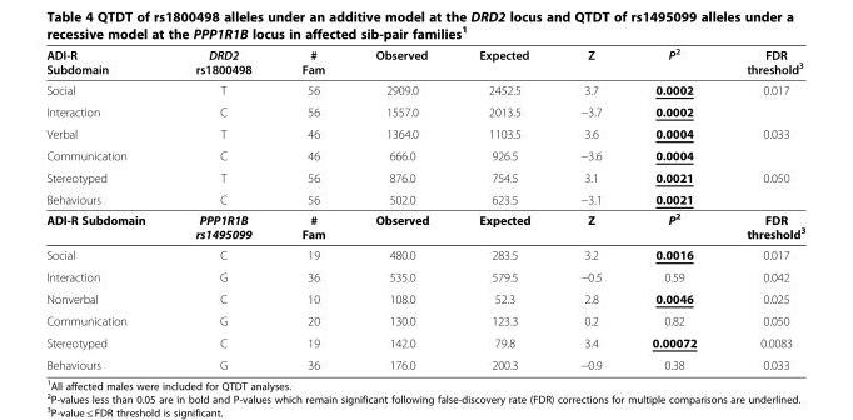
<table><thead><tr><td>ADI-R Subdomain</td><td>DRD2 rs1800498</td><td># Fam</td><td>Observed</td><td>Expected</td><td>Z</td><td>P<sup>2</sup></td><td>FDR threshold<sup>3</sup></td></tr></thead><tbody><tr><td>Social</td><td>T</td><td>56</td><td>2909.0</td><td>2452.5</td><td>3.7</td><td>0.0002</td><td>0.017</td></tr><tr><td>Interaction</td><td>C</td><td>56</td><td>1557.0</td><td>2013.5</td><td>−3.7</td><td>0.0002</td><td></td></tr><tr><td>Verbal</td><td>T</td><td>46</td><td>1364.0</td><td>1103.5</td><td>3.6</td><td>0.0004</td><td>0.033</td></tr><tr><td>Communication</td><td>C</td><td>46</td><td>666.0</td><td>926.5</td><td>−3.6</td><td>0.0004</td><td></td></tr><tr><td>Stereotyped</td><td>T</td><td>56</td><td>876.0</td><td>754.5</td><td>3.1</td><td>0.0021</td><td>0.050</td></tr><tr><td>Behaviours</td><td>C</td><td>56</td><td>502.0</td><td>623.5</td><td>−3.1</td><td>0.0021</td><td></td></tr><tr><td>ADI-R Subdomain</td><td>PPP1R1B rs1495099</td><td># Fam</td><td>Observed</td><td>Expected</td><td>Z</td><td>P<sup>2</sup></td><td>FDR threshold<sup>3</sup></td></tr><tr><td>Social</td><td>C</td><td>19</td><td>480.0</td><td>283.5</td><td>3.2</td><td>0.0016</td><td>0.017</td></tr><tr><td>Interaction</td><td>G</td><td>36</td><td>535.0</td><td>579.5</td><td>−0.5</td><td>0.59</td><td>0.042</td></tr><tr><td>Nonverbal</td><td>C</td><td>10</td><td>108.0</td><td>52.3</td><td>2.8</td><td>0.0046</td><td>0.025</td></tr><tr><td>Communication</td><td>G</td><td>20</td><td>130.0</td><td>123.3</td><td>0.2</td><td>0.82</td><td>0.050</td></tr><tr><td>Stereotyped</td><td>C</td><td>19</td><td>142.0</td><td>79.8</td><td>3.4</td><td>0.00072</td><td>0.0083</td></tr><tr><td>Behaviours</td><td>G</td><td>36</td><td>176.0</td><td>200.3</td><td>−0.9</td><td>0.38</td><td>0.033</td></tr></tbody></table>